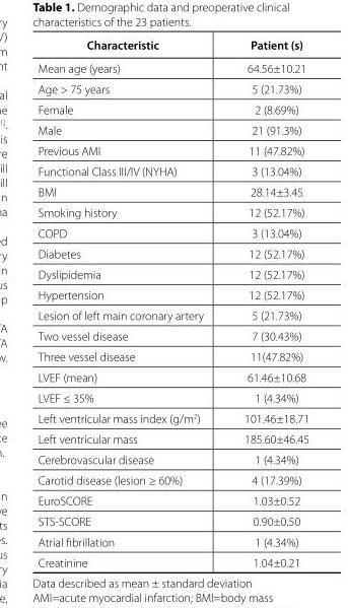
<table><thead><tr><td>Characteristic</td><td>Patient (s)</td></tr></thead><tbody><tr><td>Mean age (years)</td><td>64.56±10.21</td></tr><tr><td>Age &gt; 75 years</td><td>5 (21.73%)</td></tr><tr><td>Female</td><td>2 (8.69%)</td></tr><tr><td>Male</td><td>21 (91.3%)</td></tr><tr><td>Previous AMI</td><td>11 (47.82%)</td></tr><tr><td>Functional Class III/IV (NYHA)</td><td>3 (13.04%)</td></tr><tr><td>BMI</td><td>28.14±3.45</td></tr><tr><td>Smoking history</td><td>12 (52.17%)</td></tr><tr><td>COPD</td><td>3 (13.04%)</td></tr><tr><td>Diabetes</td><td>12 (52.17%)</td></tr><tr><td>Dyslipidemia</td><td>12 (52.17%)</td></tr><tr><td>Hypertension</td><td>12 (52.17%)</td></tr><tr><td>Lesion of left main coronary artery</td><td>5 (21.73%)</td></tr><tr><td>Two vessel disease</td><td>7 (30.43%)</td></tr><tr><td>Three vessel disease</td><td>11(47.82%)</td></tr><tr><td>LVEF (mean)</td><td>61.46±10.68</td></tr><tr><td>LVEF ≤ 35%</td><td>1 (4.34%)</td></tr><tr><td>Left ventricular mass index (g/m<sup>2</sup>)</td><td>101.46±18.71</td></tr><tr><td>Left ventricular mass</td><td>185.60±46.45</td></tr><tr><td>Cerebrovascular disease</td><td>1 (4.34%)</td></tr><tr><td>Carotid disease (lesion ≥ 60%)</td><td>4 (17.39%)</td></tr><tr><td>EuroSCORE</td><td>1.03±0.52</td></tr><tr><td>STS-SCORE</td><td>0.90±0.50</td></tr><tr><td>Atrial fibrillation</td><td>1 (4.34%)</td></tr><tr><td>Creatinine</td><td>1.04±0.21</td></tr></tbody></table>